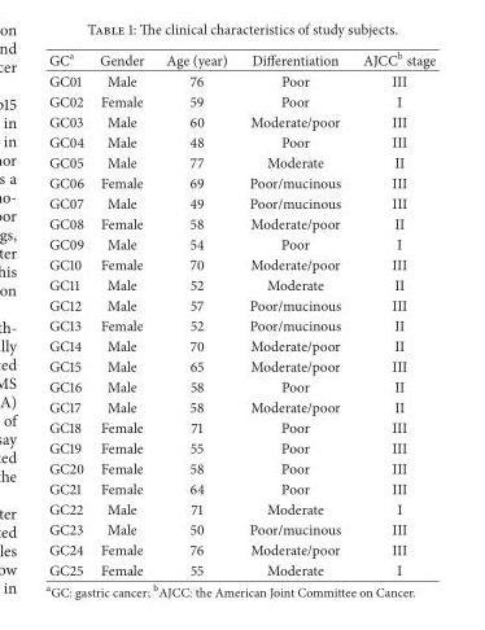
<table><thead><tr><td>GC<sup>a</sup></td><td>Gender</td><td>Age (year)</td><td>Differentiation</td><td>AJCC<sup>b</sup> stage</td></tr></thead><tbody><tr><td>GC01</td><td>Male</td><td>76</td><td>Poor</td><td>III</td></tr><tr><td>GC02</td><td>Female</td><td>59</td><td>Poor</td><td>I</td></tr><tr><td>GC03</td><td>Male</td><td>60</td><td>Moderate/poor</td><td>III</td></tr><tr><td>GC04</td><td>Male</td><td>48</td><td>Poor</td><td>III</td></tr><tr><td>GC05</td><td>Male</td><td>77</td><td>Moderate</td><td>II</td></tr><tr><td>GC06</td><td>Female</td><td>69</td><td>Poor/mucinous</td><td>III</td></tr><tr><td>GC07</td><td>Male</td><td>49</td><td>Poor/mucinous</td><td>III</td></tr><tr><td>GC08</td><td>Female</td><td>58</td><td>Moderate/poor</td><td>II</td></tr><tr><td>GC09</td><td>Male</td><td>54</td><td>Poor</td><td>I</td></tr><tr><td>GC10</td><td>Female</td><td>70</td><td>Moderate/poor</td><td>III</td></tr><tr><td>GC11</td><td>Male</td><td>52</td><td>Moderate</td><td>II</td></tr><tr><td>GC12</td><td>Male</td><td>57</td><td>Poor/mucinous</td><td>III</td></tr><tr><td>GC13</td><td>Female</td><td>52</td><td>Poor/mucinous</td><td>II</td></tr><tr><td>GC14</td><td>Male</td><td>70</td><td>Moderate/poor</td><td>II</td></tr><tr><td>GC15</td><td>Male</td><td>65</td><td>Moderate/poor</td><td>III</td></tr><tr><td>GC16</td><td>Male</td><td>58</td><td>Poor</td><td>II</td></tr><tr><td>GC17</td><td>Male</td><td>58</td><td>Moderate/poor</td><td>II</td></tr><tr><td>GC18</td><td>Female</td><td>71</td><td>Poor</td><td>III</td></tr><tr><td>GC19</td><td>Female</td><td>55</td><td>Poor</td><td>III</td></tr><tr><td>GC20</td><td>Female</td><td>58</td><td>Poor</td><td>III</td></tr><tr><td>GC21</td><td>Female</td><td>64</td><td>Poor</td><td>III</td></tr><tr><td>GC22</td><td>Male</td><td>71</td><td>Moderate</td><td>I</td></tr><tr><td>GC23</td><td>Male</td><td>50</td><td>Poor/mucinous</td><td>III</td></tr><tr><td>GC24</td><td>Female</td><td>76</td><td>Moderate/poor</td><td>III</td></tr><tr><td>GC25</td><td>Female</td><td>55</td><td>Moderate</td><td>I</td></tr></tbody></table>